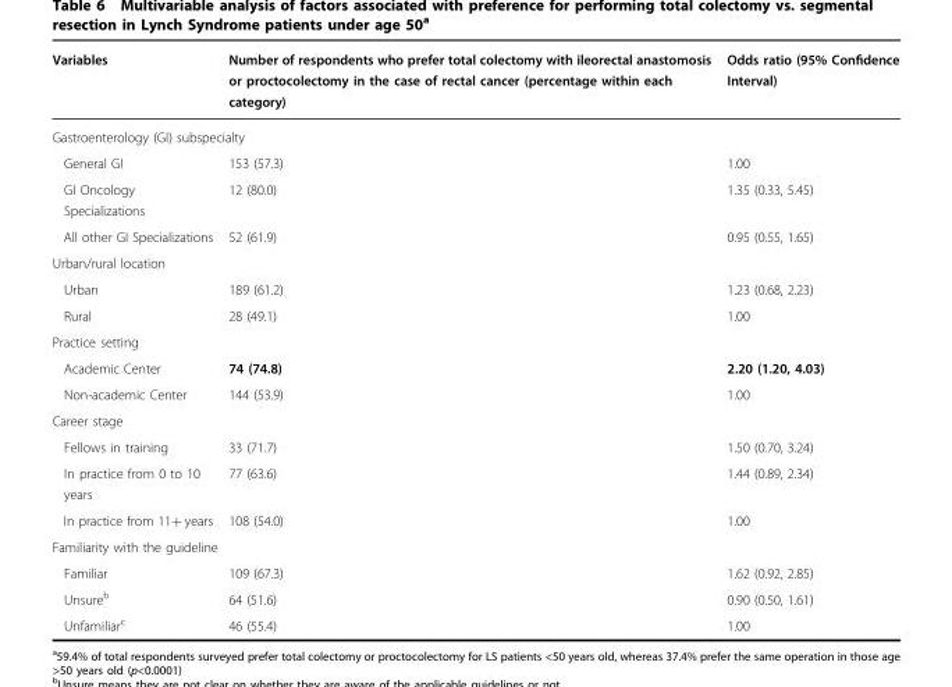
<table><thead><tr><td>Variables</td><td>Number of respondents who prefer total colectomy with ileorectal anastomosis or proctocolectomy in the case of rectal cancer (percentage within each category)</td><td>Odds ratio (95% Confidence Interval)</td></tr></thead><tbody><tr><td colspan="3">Gastroenterology (GI) subspecialty</td></tr><tr><td>General GI</td><td>153 (57.3)</td><td>1.00</td></tr><tr><td>GI Oncology Specializations</td><td>12 (80.0)</td><td>1.35 (0.33, 5.45)</td></tr><tr><td>All other GI Specializations</td><td>52 (61.9)</td><td>0.95 (0.55, 1.65)</td></tr><tr><td colspan="3">Urban/rural location</td></tr><tr><td>Urban</td><td>189 (61.2)</td><td>1.23 (0.68, 2.23)</td></tr><tr><td>Rural</td><td>28 (49.1)</td><td>1.00</td></tr><tr><td colspan="3">Practice setting</td></tr><tr><td>Academic Center</td><td>74 (74.8)</td><td>2.20 (1.20, 4.03)</td></tr><tr><td>Non-academic Center</td><td>144 (53.9)</td><td>1.00</td></tr><tr><td colspan="3">Career stage</td></tr><tr><td>Fellows in training</td><td>33 (71.7)</td><td>1.50 (0.70, 3.24)</td></tr><tr><td>In practice from 0 to 10 years</td><td>77 (63.6)</td><td>1.44 (0.89, 2.34)</td></tr><tr><td>In practice from 11+ years</td><td>108 (54.0)</td><td>1.00</td></tr><tr><td colspan="3">Familiarity with the guideline</td></tr><tr><td>Familiar</td><td>109 (67.3)</td><td>1.62 (0.92, 2.85)</td></tr><tr><td>Unsure<sup>b</sup></td><td>64 (51.6)</td><td>0.90 (0.50, 1.61)</td></tr><tr><td>Unfamiliar<sup>c</sup></td><td>46 (55.4)</td><td>1.00</td></tr></tbody></table>